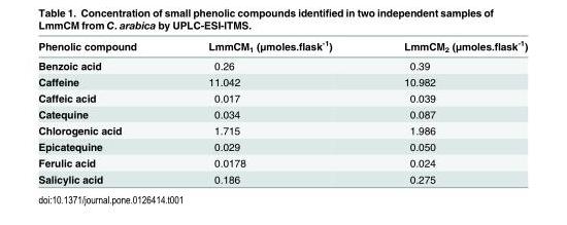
<table><thead><tr><td>Phenolic compound</td><td>LmmCM<sub>1</sub> (μmoles.flask<sup>-1</sup>)</td><td>LmmCM<sub>2</sub> (μmoles.flask<sup>-1</sup>)</td></tr></thead><tbody><tr><td>Benzoic acid</td><td>0.26</td><td>0.39</td></tr><tr><td>Caffeine</td><td>11.042</td><td>10.982</td></tr><tr><td>Caffeic acid</td><td>0.017</td><td>0.039</td></tr><tr><td>Catequine</td><td>0.034</td><td>0.087</td></tr><tr><td>Chlorogenic acid</td><td>1.715</td><td>1.986</td></tr><tr><td>Epicatequine</td><td>0.029</td><td>0.050</td></tr><tr><td>Ferulic acid</td><td>0.0178</td><td>0.024</td></tr><tr><td>Salicylic acid</td><td>0.186</td><td>0.275</td></tr></tbody></table>